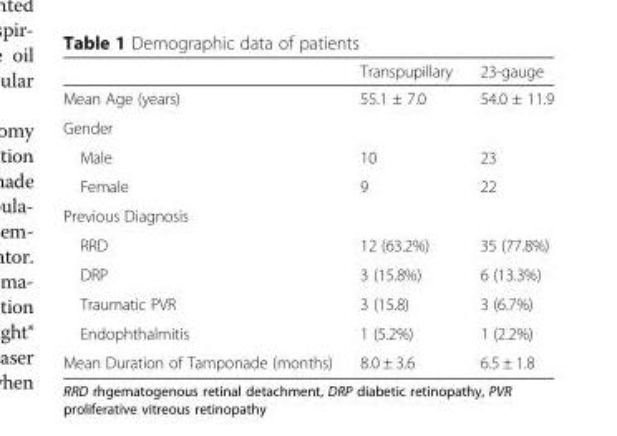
<table><thead><tr><td></td><td>Transpupillary</td><td>23-gauge</td></tr></thead><tbody><tr><td>Mean Age (years)</td><td>55.1 ± 7.0</td><td>54.0 ± 11.9</td></tr><tr><td colspan="3">Gender</td></tr><tr><td>Male</td><td>10</td><td>23</td></tr><tr><td>Female</td><td>9</td><td>22</td></tr><tr><td colspan="3">Previous Diagnosis</td></tr><tr><td>RRD</td><td>12 (63.2%)</td><td>35 (77.8%)</td></tr><tr><td>DRP</td><td>3 (15.8%)</td><td>6 (13.3%)</td></tr><tr><td>Traumatic PVR</td><td>3 (15.8)</td><td>3 (6.7%)</td></tr><tr><td>Endophthalmitis</td><td>1 (5.2%)</td><td>1 (2.2%)</td></tr><tr><td>Mean Duration of Tamponade (months)</td><td>8.0 ± 3.6</td><td>6.5 ± 1.8</td></tr></tbody></table>